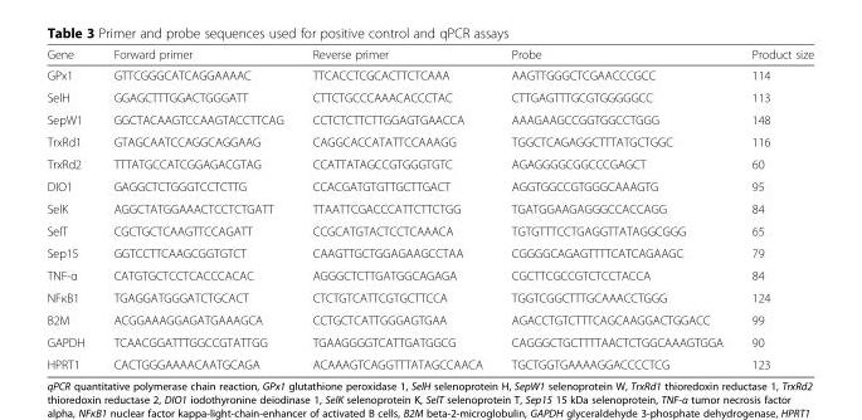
<table><thead><tr><td>Gene</td><td>Forward primer</td><td>Reverse primer</td><td>Probe</td><td>Product size</td></tr></thead><tbody><tr><td>GPx1</td><td>GTTCGGGCATCAGGAAAAC</td><td>TTCACCTCGCACTTCTCAAA</td><td>AAGTTGGGCTCGAACCCGCC</td><td>114</td></tr><tr><td>SelH</td><td>GGAGCTTTGGACTGGGATT</td><td>CTTCTGCCCAAACACCCTAC</td><td>CTTGAGTTTGCGTGGGGGCC</td><td>113</td></tr><tr><td>SepW1</td><td>GGCTACAAGTCCAAGTACCTTCAG</td><td>CCTCTCTTCTTGGAGTGAACCA</td><td>AAAGAAGCCGGTGGCCTGGG</td><td>148</td></tr><tr><td>TrxRd1</td><td>GTAGCAATCCAGGCAGGAAG</td><td>CAGGCACCATATTCCAAAGG</td><td>TGGCTCAGAGGCTTTATGCTGGC</td><td>116</td></tr><tr><td>TrxRd2</td><td>TTTATGCCATCGGAGACGTAG</td><td>CCATTATAGCCGTGGGTGTC</td><td>AGAGGGGCGGCCCGAGCT</td><td>60</td></tr><tr><td>DIO1</td><td>GAGGCTCTGGGTCCTCTTG</td><td>CCACGATGTGTTGCTTGACT</td><td>AGGTGGCCGTGGGCAAAGTG</td><td>95</td></tr><tr><td>SelK</td><td>AGGCTATGGAAACTCCTCTGATT</td><td>TTAATTCGACCCATTCTTCTGG</td><td>TGATGGAAGAGGGCCACCAGG</td><td>84</td></tr><tr><td>SelT</td><td>CGCTGCTCAAGTTCCAGATT</td><td>CCGCATGTACTCCTCAAACA</td><td>TGTGTTTCCTGAGGTTATAGGCGGG</td><td>65</td></tr><tr><td>Sep15</td><td>GGTCCTTCAAGCGGTGTCT</td><td>CAAGTTGCTGGAGAAGCCTAA</td><td>CGGGGCAGAGTTTTCATCAGAAGC</td><td>79</td></tr><tr><td>TNF-α</td><td>CATGTGCTCCTCACCCACAC</td><td>AGGGCTCTTGATGGCAGAGA</td><td>CGCTTCGCCGTCTCCTACCA</td><td>84</td></tr><tr><td>NFκB1</td><td>TGAGGATGGGATCTGCACT</td><td>CTCTGTCATTCGTGCTTCCA</td><td>TGGTCGGCTTTGCAAACCTGGG</td><td>124</td></tr><tr><td>B2M</td><td>ACGGAAAGGAGATGAAAGCA</td><td>CCTGCTCATTGGGAGTGAA</td><td>AGACCTGTCTTTCAGCAAGGACTGGACC</td><td>99</td></tr><tr><td>GAPDH</td><td>TCAACGGATTTGGCCGTATTGG</td><td>TGAAGGGGTCATTGATGGCG</td><td>CAGGGCTGCTTTTAACTCTGGCAAAGTGGA</td><td>90</td></tr><tr><td>HPRT1</td><td>CACTGGGAAAACAATGCAGA</td><td>ACAAAGTCAGGTTTATAGCCAACA</td><td>TGCTGGTGAAAAGGACCCCTCG</td><td>123</td></tr></tbody></table>